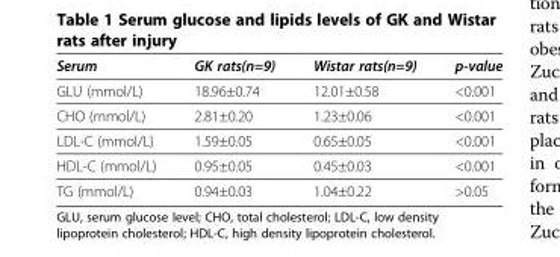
<table><thead><tr><td>Serum</td><td>GK rats(n=9)</td><td>Wistar rats(n=9)</td><td>p-value</td></tr></thead><tbody><tr><td>GLU (mmol/L)</td><td>18.96±0.74</td><td>12.01±0.58</td><td>&lt;0.001</td></tr><tr><td>CHO (mmol/L)</td><td>2.81±0.20</td><td>1.23±0.06</td><td>&lt;0.001</td></tr><tr><td>LDL-C (mmol/L)</td><td>1.59±0.05</td><td>0.65±0.05</td><td>&lt;0.001</td></tr><tr><td>HDL-C (mmol/L)</td><td>0.95±0.05</td><td>0.45±0.03</td><td>&lt;0.001</td></tr><tr><td>TG (mmol/L)</td><td>0.94±0.03</td><td>1.04±0.22</td><td>&gt;0.05</td></tr></tbody></table>